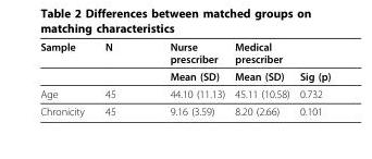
<table><thead><tr><td>Sample</td><td>N</td><td>Nurse prescriber</td><td>Medical prescriber</td><td></td></tr></thead><tbody><tr><td></td><td></td><td>Mean (SD)</td><td>Mean (SD)</td><td>Sig (p)</td></tr><tr><td>Age</td><td>45</td><td>44.10 (11.13)</td><td>45.11 (10.58)</td><td>0.732</td></tr><tr><td>Chronicity</td><td>45</td><td>9.16 (3.59)</td><td>8.20 (2.66)</td><td>0.101</td></tr></tbody></table>